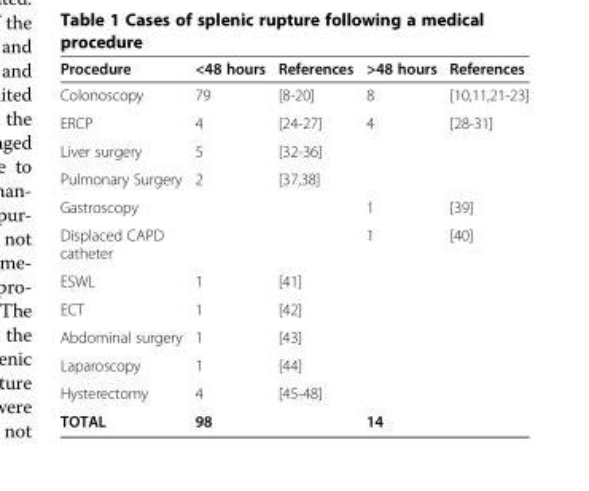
<table><thead><tr><td>Procedure</td><td>&lt;48 hours</td><td>References</td><td>&gt;48 hours</td><td>References</td></tr></thead><tbody><tr><td>Colonoscopy</td><td>79</td><td>[8-20]</td><td>8</td><td>[10,11,21-23]</td></tr><tr><td>ERCP</td><td>4</td><td>[24-27]</td><td>4</td><td>[28-31]</td></tr><tr><td>Liver surgery</td><td>5</td><td>[32-36]</td><td></td><td></td></tr><tr><td>Pulmonary Surgery</td><td>2</td><td>[37,38]</td><td></td><td></td></tr><tr><td>Gastroscopy</td><td></td><td></td><td>1</td><td>[39]</td></tr><tr><td>Displaced CAPD catheter</td><td></td><td></td><td>1</td><td>[40]</td></tr><tr><td>ESWL</td><td>1</td><td>[41]</td><td></td><td></td></tr><tr><td>ECT</td><td>1</td><td>[42]</td><td></td><td></td></tr><tr><td>Abdominal surgery</td><td>1</td><td>[43]</td><td></td><td></td></tr><tr><td>Laparoscopy</td><td>1</td><td>[44]</td><td></td><td></td></tr><tr><td>Hysterectomy</td><td>4</td><td>[45-48]</td><td></td><td></td></tr><tr><td>TOTAL</td><td>98</td><td></td><td>14</td><td></td></tr></tbody></table>